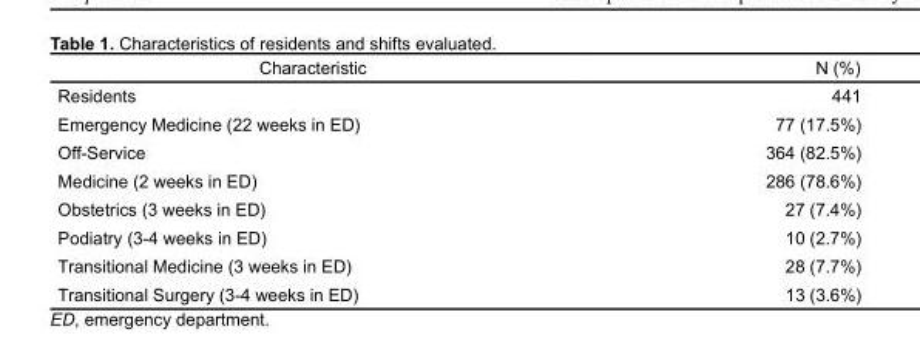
<table><thead><tr><td>Characteristic</td><td>N (%)</td></tr></thead><tbody><tr><td>Residents</td><td>441</td></tr><tr><td>Emergency Medicine (22 weeks in ED)</td><td>77 (17.5%)</td></tr><tr><td>Off-Service</td><td>364 (82.5%)</td></tr><tr><td>Medicine (2 weeks in ED)</td><td>286 (78.6%)</td></tr><tr><td>Obstetrics (3 weeks in ED)</td><td>27 (7.4%)</td></tr><tr><td>Podiatry (3-4 weeks in ED)</td><td>10 (2.7%)</td></tr><tr><td>Transitional Medicine (3 weeks in ED)</td><td>28 (7.7%)</td></tr><tr><td>Transitional Surgery (3-4 weeks in ED)</td><td>13 (3.6%)</td></tr></tbody></table>